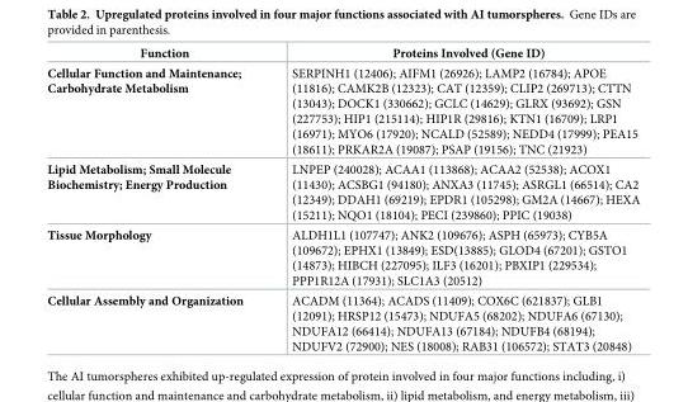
<table><thead><tr><td>Function</td><td>Proteins Involved (Gene ID)</td></tr></thead><tbody><tr><td>Cellular Function and Maintenance; Carbohydrate Metabolism</td><td>SERPINH1 (12406); AIFM1 (26926); LAMP2 (16784); APOE (11816); CAMK2B (12323); CAT (12359); CLIP2 (269713); CTTN (13043); DOCK1 (330662); GCLC (14629); GLRX (93692); GSN (227753); HIP1 (215114); HIP1R (29816); KTN1 (16709); LRP1 (16971); MYO6 (17920); NCALD (52589); NEDD4 (17999); PEA15 (18611); PRKAR2A (19087); PSAP (19156); TNC (21923)</td></tr><tr><td>Lipid Metabolism; Small Molecule Biochemistry; Energy Production</td><td>LNPEP (240028); ACAA1 (113868); ACAA2 (52538); ACOX1 (11430); ACSBG1 (94180); ANXA3 (11745); ASRGL1 (66514); CA2 (12349); DDAH1 (69219); EPDR1 (105298); GM2A (14667); HEXA (15211); NQO1 (18104); PECI (239860); PPIC (19038)</td></tr><tr><td>Tissue Morphology</td><td>ALDH1L1 (107747); ANK2 (109676); ASPH (65973); CYB5A (109672); EPHX1 (13849); ESD(13885); GLOD4 (67201); GSTO1 (14873); HIBCH (227095); ILF3 (16201); PBXIP1 (229534); PPP1R12A (17931); SLC1A3 (20512)</td></tr><tr><td>Cellular Assembly and Organization</td><td>ACADM (11364); ACADS (11409); COX6C (621837); GLB1 (12091); HRSP12 (15473); NDUFA5 (68202); NDUFA6 (67130); NDUFA12 (66414); NDUFA13 (67184); NDUFB4 (68194); NDUFV2 (72900); NES (18008); RAB31 (106572); STAT3 (20848)</td></tr></tbody></table>